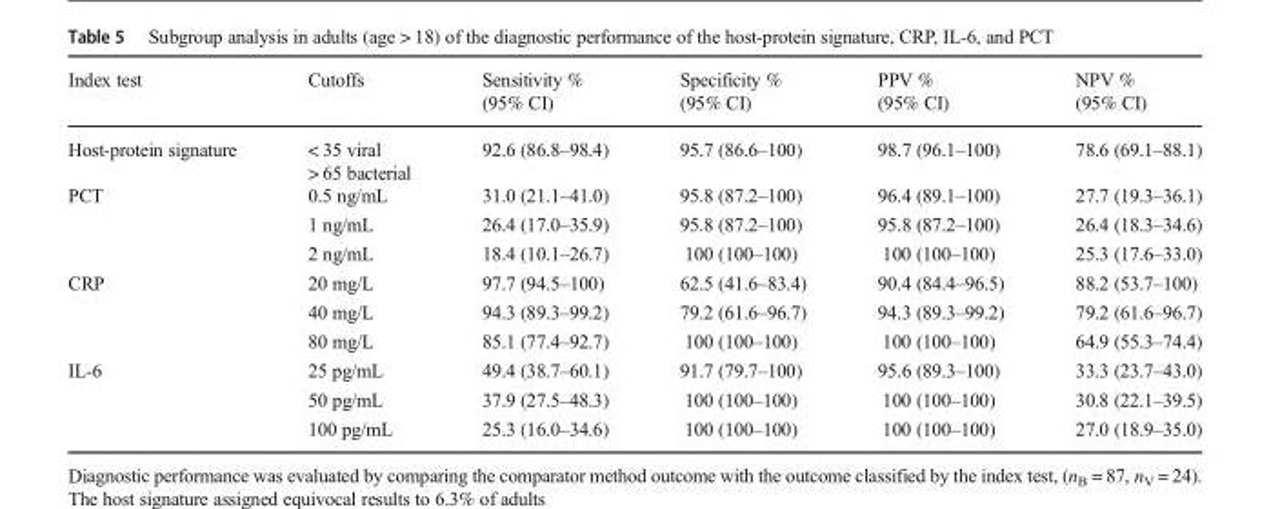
<table><thead><tr><td>Index test</td><td>Cutoffs</td><td>Sensitivity % (95% CI)</td><td>Specificity % (95% CI)</td><td>PPV % (95% CI)</td><td>NPV % (95% CI)</td></tr></thead><tbody><tr><td>Host-protein signature</td><td>&lt; 35 viral &gt; 65 bacterial</td><td>92.6 (86.8–98.4)</td><td>95.7 (86.6–100)</td><td>98.7 (96.1–100)</td><td>78.6 (69.1–88.1)</td></tr><tr><td rowspan="3">PCT</td><td>0.5 ng/mL</td><td>31.0 (21.1–41.0)</td><td>95.8 (87.2–100)</td><td>96.4 (89.1–100)</td><td>27.7 (19.3–36.1)</td></tr><tr><td>1 ng/mL</td><td>26.4 (17.0–35.9)</td><td>95.8 (87.2–100)</td><td>95.8 (87.2–100)</td><td>26.4 (18.3–34.6)</td></tr><tr><td>2 ng/mL</td><td>18.4 (10.1–26.7)</td><td>100 (100–100)</td><td>100 (100–100)</td><td>25.3 (17.6–33.0)</td></tr><tr><td rowspan="3">CRP</td><td>20 mg/L</td><td>97.7 (94.5–100)</td><td>62.5 (41.6–83.4)</td><td>90.4 (84.4–96.5)</td><td>88.2 (53.7–100)</td></tr><tr><td>40 mg/L</td><td>94.3 (89.3–99.2)</td><td>79.2 (61.6–96.7)</td><td>94.3 (89.3–99.2)</td><td>79.2 (61.6–96.7)</td></tr><tr><td>80 mg/L</td><td>85.1 (77.4–92.7)</td><td>100 (100–100)</td><td>100 (100–100)</td><td>64.9 (55.3–74.4)</td></tr><tr><td rowspan="3">IL-6</td><td>25 pg/mL</td><td>49.4 (38.7–60.1)</td><td>91.7 (79.7–100)</td><td>95.6 (89.3–100)</td><td>33.3 (23.7–43.0)</td></tr><tr><td>50 pg/mL</td><td>37.9 (27.5–48.3)</td><td>100 (100–100)</td><td>100 (100–100)</td><td>30.8 (22.1–39.5)</td></tr><tr><td>100 pg/mL</td><td>25.3 (16.0–34.6)</td><td>100 (100–100)</td><td>100 (100–100)</td><td>27.0 (18.9–35.0)</td></tr></tbody></table>